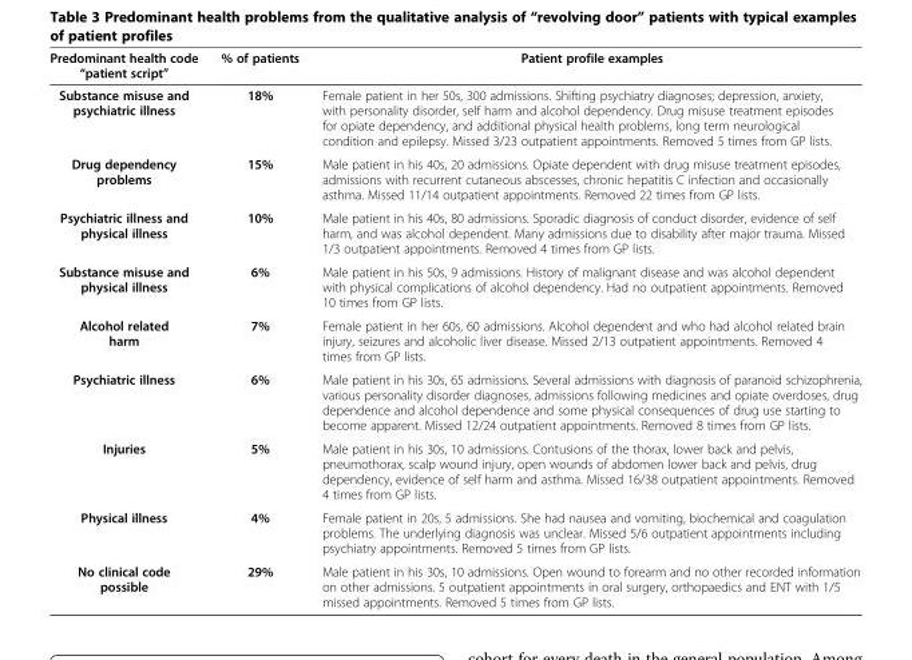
<table><thead><tr><td>Predominant health code “patient script”</td><td>% of patients</td><td>Patient profile examples</td></tr></thead><tbody><tr><td>Substance misuse and psychiatric illness</td><td>18%</td><td>Female patient in her 50s, 300 admissions. Shifting psychiatry diagnoses; depression, anxiety, with personality disorder, self harm and alcohol dependency. Drug misuse treatment episodes for opiate dependency, and additional physical health problems, long term neurological condition and epilepsy. Missed 3/23 outpatient appointments. Removed 5 times from GP lists.</td></tr><tr><td>Drug dependency problems</td><td>15%</td><td>Male patient in his 40s, 20 admissions. Opiate dependent with drug misuse treatment episodes, admissions with recurrent cutaneous abscesses, chronic hepatitis C infection and occasionally asthma. Missed 11/14 outpatient appointments. Removed 22 times from GP lists.</td></tr><tr><td>Psychiatric illness and physical illness</td><td>10%</td><td>Male patient in his 40s, 80 admissions. Sporadic diagnosis of conduct disorder, evidence of self harm, and was alcohol dependent. Many admissions due to disability after major trauma. Missed 1/3 outpatient appointments. Removed 4 times from GP lists.</td></tr><tr><td>Substance misuse and physical illness</td><td>6%</td><td>Male patient in his 50s, 9 admissions. History of malignant disease and was alcohol dependent with physical complications of alcohol dependency. Had no outpatient appointments. Removed 10 times from GP lists.</td></tr><tr><td>Alcohol related harm</td><td>7%</td><td>Female patient in her 60s, 60 admissions. Alcohol dependent and who had alcohol related brain injury, seizures and alcoholic liver disease. Missed 2/13 outpatient appointments. Removed 4 times from GP lists.</td></tr><tr><td>Psychiatric illness</td><td>6%</td><td>Male patient in his 30s, 65 admissions. Several admissions with diagnosis of paranoid schizophrenia, various personality disorder diagnoses, admissions following medicines and opiate overdoses, drug dependence and alcohol dependence and some physical consequences of drug use starting to become apparent. Missed 12/24 outpatient appointments. Removed 8 times from GP lists.</td></tr><tr><td>Injuries</td><td>5%</td><td>Male patient in his 30s, 10 admissions. Contusions of the thorax, lower back and pelvis, pneumothorax, scalp wound injury, open wounds of abdomen lower back and pelvis, drug dependency, evidence of self harm and asthma. Missed 16/38 outpatient appointments. Removed 4 times from GP lists.</td></tr><tr><td>Physical illness</td><td>4%</td><td>Female patient in 20s, 5 admissions. She had nausea and vomiting, biochemical and coagulation problems. The underlying diagnosis was unclear. Missed 5/6 outpatient appointments including psychiatry appointments. Removed 5 times from GP lists.</td></tr><tr><td>No clinical code possible</td><td>29%</td><td>Male patient in his 30s, 10 admissions. Open wound to forearm and no other recorded information on other admissions. 5 outpatient appointments in oral surgery, orthopaedics and ENT with 1/5 missed appointments. Removed 5 times from GP lists.</td></tr></tbody></table>